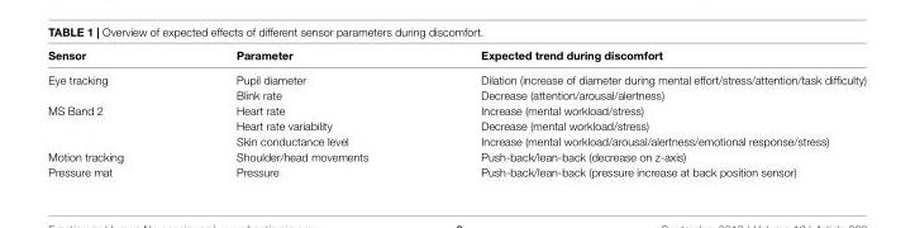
<table><thead><tr><td>Sensor</td><td>Parameter</td><td>Expected trend during discomfort</td></tr></thead><tbody><tr><td rowspan="2">Eye tracking</td><td>Pupil diameter</td><td>Dilation (increase of diameter during mental effort/stress/attention/task difficulty)</td></tr><tr><td>Blink rate</td><td>Decrease (attention/arousal/alertness)</td></tr><tr><td rowspan="3">MS Band 2</td><td>Heart rate</td><td>Increase (mental workload/stress)</td></tr><tr><td>Heart rate variability</td><td>Decrease (mental workload/stress)</td></tr><tr><td>Skin conductance level</td><td>Increase (mental workload/arousal/alertness/emotional response/stress)</td></tr><tr><td>Motion tracking</td><td>Shoulder/head movements</td><td>Push-back/lean-back (decrease on z-axis)</td></tr><tr><td>Pressure mat</td><td>Pressure</td><td>Push-back/lean-back (pressure increase at back position sensor)</td></tr></tbody></table>